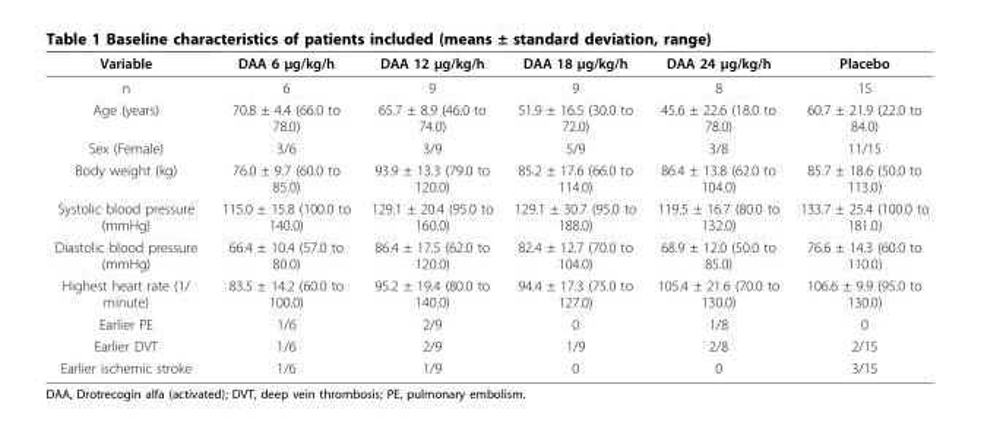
<table><thead><tr><td>Variable</td><td>DAA 6 μg/kg/h</td><td>DAA 12 μg/kg/h</td><td>DAA 18 μg/kg/h</td><td>DAA 24 μg/kg/h</td><td>Placebo</td></tr></thead><tbody><tr><td>n</td><td>6</td><td>9</td><td>9</td><td>8</td><td>15</td></tr><tr><td>Age (years)</td><td>70.8 ± 4.4 (66.0 to 78.0)</td><td>65.7 ± 8.9 (46.0 to 74.0)</td><td>51.9 ± 16.5 (30.0 to 72.0)</td><td>45.6 ± 22.6 (18.0 to 78.0)</td><td>60.7 ± 21.9 (22.0 to 84.0)</td></tr><tr><td>Sex (Female)</td><td>3/6</td><td>3/9</td><td>5/9</td><td>3/8</td><td>11/15</td></tr><tr><td>Body weight (kg)</td><td>76.0 ± 9.7 (60.0 to 85.0)</td><td>93.9 ± 13.3 (79.0 to 120.0)</td><td>85.2 ± 17.6 (66.0 to 114.0)</td><td>86.4 ± 13.8 (62.0 to 104.0)</td><td>85.7 ± 18.6 (50.0 to 113.0)</td></tr><tr><td>Systolic blood pressure (mmHg)</td><td>115.0 ± 15.8 (100.0 to 140.0)</td><td>129.1 ± 20.4 (95.0 to 160.0)</td><td>129.1 ± 30.7 (95.0 to 188.0)</td><td>119.5 ± 16.7 (80.0 to 132.0)</td><td>133.7 ± 25.4 (100.0 to 181.0)</td></tr><tr><td>Diastolic blood pressure (mmHg)</td><td>66.4 ± 10.4 (57.0 to 80.0)</td><td>86.4 ± 17.5 (62.0 to 120.0)</td><td>82.4 ± 12.7 (70.0 to 104.0)</td><td>68.9 ± 12.0 (50.0 to 85.0)</td><td>76.6 ± 14.3 (60.0 to 110.0)</td></tr><tr><td>Highest heart rate (1/ minute)</td><td>83.5 ± 14.2 (60.0 to 100.0)</td><td>95.2 ± 19.4 (80.0 to 140.0)</td><td>94.4 ± 17.3 (75.0 to 127.0)</td><td>105.4 ± 21.6 (70.0 to 130.0)</td><td>106.6 ± 9.9 (95.0 to 130.0)</td></tr><tr><td>Earlier PE</td><td>1/6</td><td>2/9</td><td>0</td><td>1/8</td><td>0</td></tr><tr><td>Earlier DVT</td><td>1/6</td><td>2/9</td><td>1/9</td><td>2/8</td><td>2/15</td></tr><tr><td>Earlier ischemic stroke</td><td>1/6</td><td>1/9</td><td>0</td><td>0</td><td>3/15</td></tr></tbody></table>